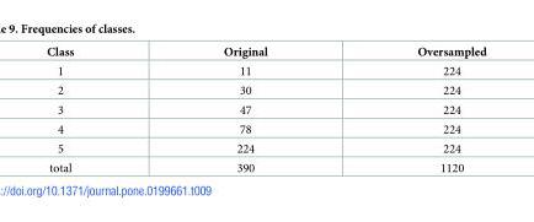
<table><thead><tr><td>Class</td><td>Original</td><td>Oversampled</td></tr></thead><tbody><tr><td>1</td><td>11</td><td>224</td></tr><tr><td>2</td><td>30</td><td>224</td></tr><tr><td>3</td><td>47</td><td>224</td></tr><tr><td>4</td><td>78</td><td>224</td></tr><tr><td>5</td><td>224</td><td>224</td></tr><tr><td>total</td><td>390</td><td>1120</td></tr></tbody></table>